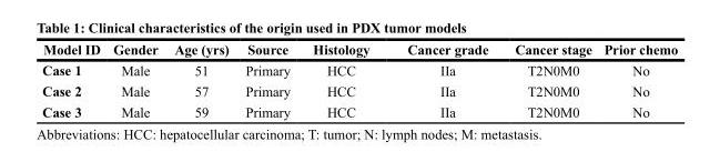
<table><thead><tr><td>Model ID</td><td>Gender</td><td>Age (yrs)</td><td>Source</td><td>Histology</td><td>Cancer grade</td><td>Cancer stage</td><td>Prior chemo</td></tr></thead><tbody><tr><td>Case 1</td><td>Male</td><td>51</td><td>Primary</td><td>HCC</td><td>IIa</td><td>T2N0M0</td><td>No</td></tr><tr><td>Case 2</td><td>Male</td><td>57</td><td>Primary</td><td>HCC</td><td>IIa</td><td>T2N0M0</td><td>No</td></tr><tr><td>Case 3</td><td>Male</td><td>59</td><td>Primary</td><td>HCC</td><td>IIa</td><td>T2N0M0</td><td>No</td></tr></tbody></table>